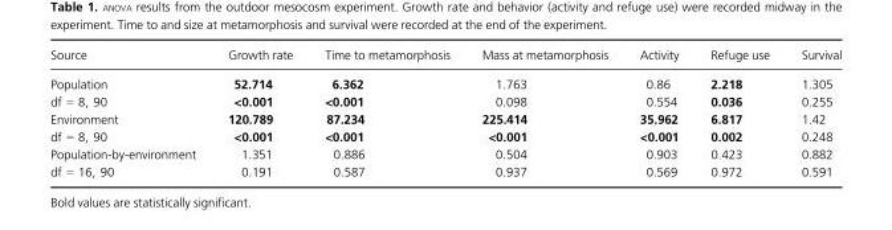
<table><thead><tr><td>Source</td><td>Growth rate</td><td>Time to metamorphosis</td><td>Mass at metamorphosis</td><td>Activity</td><td>Refuge use</td><td>Survival</td></tr></thead><tbody><tr><td>Population df = 8, 90</td><td>52.714 &lt;0.001</td><td>6.362 &lt;0.001</td><td>1.763 0.098</td><td>0.86 0.554</td><td>2.218 0.036</td><td>1.305 0.255</td></tr><tr><td>Environment df = 8, 90</td><td>120.789 &lt;0.001</td><td>87.234 &lt;0.001</td><td>225.414 &lt;0.001</td><td>35.962 &lt;0.001</td><td>6.817 0.002</td><td>1.42 0.248</td></tr><tr><td>Population-by-environment df = 16, 90</td><td>1.351 0.191</td><td>0.886 0.587</td><td>0.504 0.937</td><td>0.903 0.569</td><td>0.423 0.972</td><td>0.882 0.591</td></tr></tbody></table>